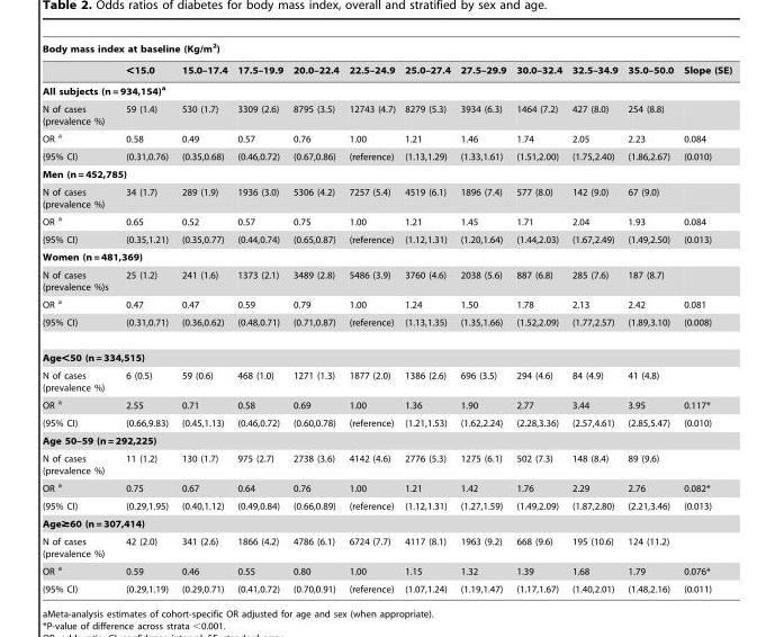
<table><thead><tr><td colspan="12">Body mass index at baseline (Kg/m<sup>2</sup>)</td></tr><tr><td></td><td>&lt;15.0</td><td>15.0–17.4</td><td>17.5–19.9</td><td>20.0–22.4</td><td>22.5–24.9</td><td>25.0–27.4</td><td>27.5–29.9</td><td>30.0–32.4</td><td>32.5–34.9</td><td>35.0–50.0</td><td>Slope (SE)</td></tr></thead><tbody><tr><td colspan="12">All subjects (n = 934,154)a</td></tr><tr><td>N of cases (prevalence %)</td><td>59 (1.4)</td><td>530 (1.7)</td><td>3309 (2.6)</td><td>8795 (3.5)</td><td>12743 (4.7)</td><td>8279 (5.3)</td><td>3934 (6.3)</td><td>1464 (7.2)</td><td>427 (8.0)</td><td>254 (8.8)</td><td></td></tr><tr><td>OR a</td><td>0.58</td><td>0.49</td><td>0.57</td><td>0.76</td><td>1.00</td><td>1.21</td><td>1.46</td><td>1.74</td><td>2.05</td><td>2.23</td><td>0.084</td></tr><tr><td>(95% CI)</td><td>(0.31,0.76)</td><td>(0.35,0.68)</td><td>(0.46,0.72)</td><td>(0.67,0.86)</td><td>(reference)</td><td>(1.13,1.29)</td><td>(1.33,1.61)</td><td>(1.51,2.00)</td><td>(1.75,2.40)</td><td>(1.86,2.67)</td><td>(0.010)</td></tr><tr><td colspan="12">Men (n = 452,785)</td></tr><tr><td>N of cases (prevalence %)</td><td>34 (1.7)</td><td>289 (1.9)</td><td>1936 (3.0)</td><td>5306 (4.2)</td><td>7257 (5.4)</td><td>4519 (6.1)</td><td>1896 (7.4)</td><td>577 (8.0)</td><td>142 (9.0)</td><td>67 (9.0)</td><td></td></tr><tr><td>OR a</td><td>0.65</td><td>0.52</td><td>0.57</td><td>0.75</td><td>1.00</td><td>1.21</td><td>1.45</td><td>1.71</td><td>2.04</td><td>1.93</td><td>0.084</td></tr><tr><td>(95% CI)</td><td>(0.35,1.21)</td><td>(0.35,0.77)</td><td>(0.44,0.74)</td><td>(0.65,0.87)</td><td>(reference)</td><td>(1.12,1.31)</td><td>(1.20,1.64)</td><td>(1.44,2.03)</td><td>(1.67,2.49)</td><td>(1.49,2.50)</td><td>(0.013)</td></tr><tr><td colspan="12">Women (n = 481,369)</td></tr><tr><td>N of cases (prevalence %)s</td><td>25 (1.2)</td><td>241 (1.6)</td><td>1373 (2.1)</td><td>3489 (2.8)</td><td>5486 (3.9)</td><td>3760 (4.6)</td><td>2038 (5.6)</td><td>887 (6.8)</td><td>285 (7.6)</td><td>187 (8.7)</td><td></td></tr><tr><td>OR a</td><td>0.47</td><td>0.47</td><td>0.59</td><td>0.79</td><td>1.00</td><td>1.24</td><td>1.50</td><td>1.78</td><td>2.13</td><td>2.42</td><td>0.081</td></tr><tr><td>(95% CI)</td><td>(0.31,0.71)</td><td>(0.36,0.62)</td><td>(0.48,0.71)</td><td>(0.71,0.87)</td><td>(reference)</td><td>(1.13,1.35)</td><td>(1.35,1.66)</td><td>(1.52,2.09)</td><td>(1.77,2.57)</td><td>(1.89,3.10)</td><td>(0.008)</td></tr><tr><td colspan="12">Age&lt;50 (n = 334,515)</td></tr><tr><td>N of cases (prevalence %)</td><td>6 (0.5)</td><td>59 (0.6)</td><td>468 (1.0)</td><td>1271 (1.3)</td><td>1877 (2.0)</td><td>1386 (2.6)</td><td>696 (3.5)</td><td>294 (4.6)</td><td>84 (4.9)</td><td>41 (4.8)</td><td></td></tr><tr><td>OR a</td><td>2.55</td><td>0.71</td><td>0.58</td><td>0.69</td><td>1.00</td><td>1.36</td><td>1.90</td><td>2.77</td><td>3.44</td><td>3.95</td><td>0.117*</td></tr><tr><td>(95% CI)</td><td>(0.66,9.83)</td><td>(0.45,1.13)</td><td>(0.46,0.72)</td><td>(0.60,0.78)</td><td>(reference)</td><td>(1.21,1.53)</td><td>(1.62,2.24)</td><td>(2.28,3.36)</td><td>(2.57,4.61)</td><td>(2.85,5.47)</td><td>(0.010)</td></tr><tr><td colspan="12">Age 50–59 (n = 292,225)</td></tr><tr><td>N of cases (prevalence %)</td><td>11 (1.2)</td><td>130 (1.7)</td><td>975 (2.7)</td><td>2738 (3.6)</td><td>4142 (4.6)</td><td>2776 (5.3)</td><td>1275 (6.1)</td><td>502 (7.3)</td><td>148 (8.4)</td><td>89 (9.6)</td><td></td></tr><tr><td>OR a</td><td>0.75</td><td>0.67</td><td>0.64</td><td>0.76</td><td>1.00</td><td>1.21</td><td>1.42</td><td>1.76</td><td>2.29</td><td>2.76</td><td>0.082*</td></tr><tr><td>(95% CI)</td><td>(0.29,1.95)</td><td>(0.40,1.12)</td><td>(0.49,0.84)</td><td>(0.66,0.89)</td><td>(reference)</td><td>(1.12,1.31)</td><td>(1.27,1.59)</td><td>(1.49,2.09)</td><td>(1.87,2.80)</td><td>(2.21,3.46)</td><td>(0.013)</td></tr><tr><td colspan="12">Age≥60 (n = 307,414)</td></tr><tr><td>N of cases (prevalence %)</td><td>42 (2.0)</td><td>341 (2.6)</td><td>1866 (4.2)</td><td>4786 (6.1)</td><td>6724 (7.7)</td><td>4117 (8.1)</td><td>1963 (9.2)</td><td>668 (9.6)</td><td>195 (10.6)</td><td>124 (11.2)</td><td></td></tr><tr><td>OR a</td><td>0.59</td><td>0.46</td><td>0.55</td><td>0.80</td><td>1.00</td><td>1.15</td><td>1.32</td><td>1.39</td><td>1.68</td><td>1.79</td><td>0.076*</td></tr><tr><td>(95% CI)</td><td>(0.29,1.19)</td><td>(0.29,0.71)</td><td>(0.41,0.72)</td><td>(0.70,0.91)</td><td>(reference)</td><td>(1.07,1.24)</td><td>(1.19,1.47)</td><td>(1.17,1.67)</td><td>(1.40,2.01)</td><td>(1.48,2.16)</td><td>(0.011)</td></tr></tbody></table>